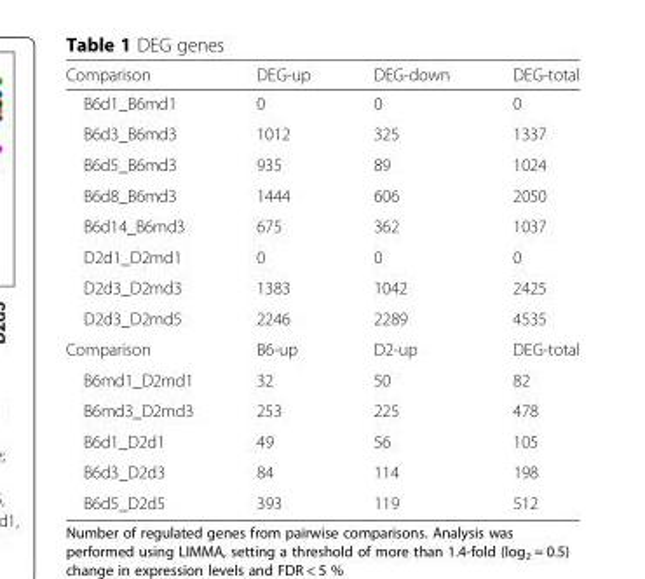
<table><thead><tr><td>Comparison</td><td>DEG-up</td><td>DEG-down</td><td>DEG-total</td></tr></thead><tbody><tr><td>B6d1_B6md1</td><td>0</td><td>0</td><td>0</td></tr><tr><td>B6d3_B6md3</td><td>1012</td><td>325</td><td>1337</td></tr><tr><td>B6d5_B6md3</td><td>935</td><td>89</td><td>1024</td></tr><tr><td>B6d8_B6md3</td><td>1444</td><td>606</td><td>2050</td></tr><tr><td>B6d14_B6md3</td><td>675</td><td>362</td><td>1037</td></tr><tr><td>D2d1_D2md1</td><td>0</td><td>0</td><td>0</td></tr><tr><td>D2d3_D2md3</td><td>1383</td><td>1042</td><td>2425</td></tr><tr><td>D2d3_D2md5</td><td>2246</td><td>2289</td><td>4535</td></tr><tr><td>Comparison</td><td>B6-up</td><td>D2-up</td><td>DEG-total</td></tr><tr><td>B6md1_D2md1</td><td>32</td><td>50</td><td>82</td></tr><tr><td>B6md3_D2md3</td><td>253</td><td>225</td><td>478</td></tr><tr><td>B6d1_D2d1</td><td>49</td><td>56</td><td>105</td></tr><tr><td>B6d3_D2d3</td><td>84</td><td>114</td><td>198</td></tr><tr><td>B6d5_D2d5</td><td>393</td><td>119</td><td>512</td></tr></tbody></table>